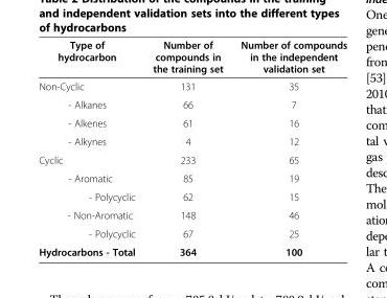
<table><thead><tr><td>Type of hydrocarbon</td><td>Number of compounds in the training set</td><td>Number of compounds in the independent validation set</td></tr></thead><tbody><tr><td>Non-Cyclic</td><td>131</td><td>35</td></tr><tr><td>- Alkanes</td><td>66</td><td>7</td></tr><tr><td>- Alkenes</td><td>61</td><td>16</td></tr><tr><td>- Alkynes</td><td>4</td><td>12</td></tr><tr><td>Cyclic</td><td>233</td><td>65</td></tr><tr><td>- Aromatic</td><td>85</td><td>19</td></tr><tr><td>- Polycyclic</td><td>62</td><td>15</td></tr><tr><td>- Non-Aromatic</td><td>148</td><td>46</td></tr><tr><td>- Polycyclic</td><td>67</td><td>25</td></tr><tr><td>Hydrocarbons - Total</td><td>364</td><td>100</td></tr></tbody></table>